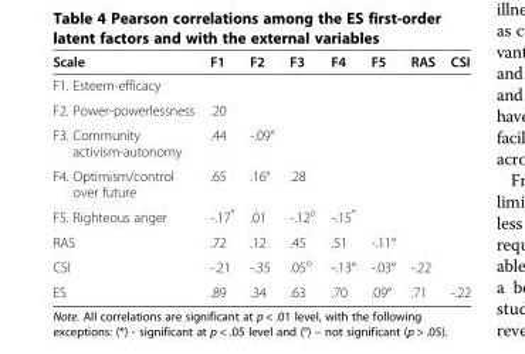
<table><thead><tr><td>Scale</td><td>F1</td><td>F2</td><td>F3</td><td>F4</td><td>F5</td><td>RAS</td><td>CSI</td></tr></thead><tbody><tr><td colspan="8">F1. Esteem-efficacy</td></tr><tr><td>F2. Power-powerlessness</td><td>.20</td><td></td><td></td><td></td><td></td><td></td><td></td></tr><tr><td>F3. Community activism-autonomy</td><td>.44</td><td>-.09°</td><td></td><td></td><td></td><td></td><td></td></tr><tr><td>F4. Optimism/control over future</td><td>.65</td><td>.16°</td><td>.28</td><td></td><td></td><td></td><td></td></tr><tr><td>F5. Righteous anger</td><td>-.17*</td><td>.01</td><td>-.12<sup>o</sup></td><td>-.15*</td><td></td><td></td><td></td></tr><tr><td>RAS</td><td>.72</td><td>.12</td><td>.45</td><td>.51</td><td>-.11°</td><td></td><td></td></tr><tr><td>CSI</td><td>-.21</td><td>-.35</td><td>.05<sup>o</sup></td><td>-.13°</td><td>-.03°</td><td>-.22</td><td></td></tr><tr><td>ES</td><td>.89</td><td>.34</td><td>.63</td><td>.70</td><td>.09°</td><td>.71</td><td>-.22</td></tr></tbody></table>